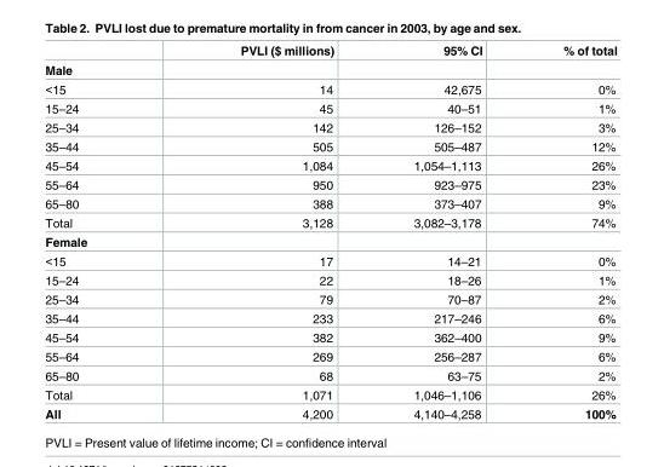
<table><thead><tr><td></td><td>PVLI ($ millions)</td><td>95% CI</td><td>% of total</td></tr></thead><tbody><tr><td colspan="4">Male</td></tr><tr><td>&lt;15</td><td>14</td><td>42,675</td><td>0%</td></tr><tr><td>15–24</td><td>45</td><td>40–51</td><td>1%</td></tr><tr><td>25–34</td><td>142</td><td>126–152</td><td>3%</td></tr><tr><td>35–44</td><td>505</td><td>505–487</td><td>12%</td></tr><tr><td>45–54</td><td>1,084</td><td>1,054–1,113</td><td>26%</td></tr><tr><td>55–64</td><td>950</td><td>923–975</td><td>23%</td></tr><tr><td>65–80</td><td>388</td><td>373–407</td><td>9%</td></tr><tr><td>Total</td><td>3,128</td><td>3,082–3,178</td><td>74%</td></tr><tr><td colspan="4">Female</td></tr><tr><td>&lt;15</td><td>17</td><td>14–21</td><td>0%</td></tr><tr><td>15–24</td><td>22</td><td>18–26</td><td>1%</td></tr><tr><td>25–34</td><td>79</td><td>70–87</td><td>2%</td></tr><tr><td>35–44</td><td>233</td><td>217–246</td><td>6%</td></tr><tr><td>45–54</td><td>382</td><td>362–400</td><td>9%</td></tr><tr><td>55–64</td><td>269</td><td>256–287</td><td>6%</td></tr><tr><td>65–80</td><td>68</td><td>63–75</td><td>2%</td></tr><tr><td>Total</td><td>1,071</td><td>1,046–1,106</td><td>26%</td></tr><tr><td>All</td><td>4,200</td><td>4,140–4,258</td><td>100%</td></tr></tbody></table>